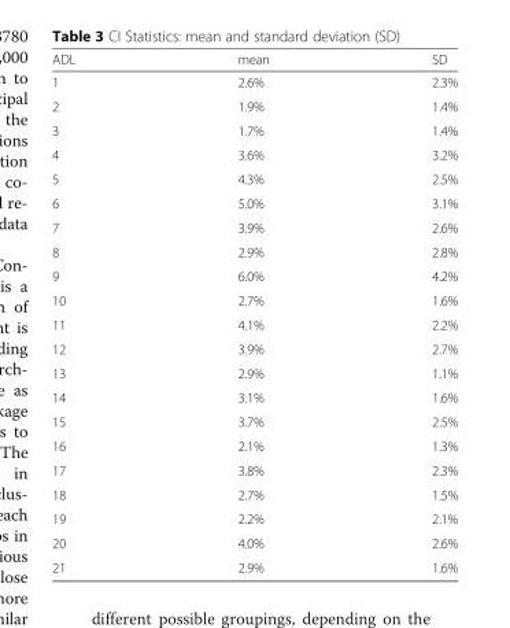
<table><thead><tr><td>ADL</td><td>mean</td><td>SD</td></tr></thead><tbody><tr><td>1</td><td>2.6%</td><td>2.3%</td></tr><tr><td>2</td><td>1.9%</td><td>1.4%</td></tr><tr><td>3</td><td>1.7%</td><td>1.4%</td></tr><tr><td>4</td><td>3.6%</td><td>3.2%</td></tr><tr><td>5</td><td>4.3%</td><td>2.5%</td></tr><tr><td>6</td><td>5.0%</td><td>3.1%</td></tr><tr><td>7</td><td>3.9%</td><td>2.6%</td></tr><tr><td>8</td><td>2.9%</td><td>2.8%</td></tr><tr><td>9</td><td>6.0%</td><td>4.2%</td></tr><tr><td>10</td><td>2.7%</td><td>1.6%</td></tr><tr><td>11</td><td>4.1%</td><td>2.2%</td></tr><tr><td>12</td><td>3.9%</td><td>2.7%</td></tr><tr><td>13</td><td>2.9%</td><td>1.1%</td></tr><tr><td>14</td><td>3.1%</td><td>1.6%</td></tr><tr><td>15</td><td>3.7%</td><td>2.5%</td></tr><tr><td>16</td><td>2.1%</td><td>1.3%</td></tr><tr><td>17</td><td>3.8%</td><td>2.3%</td></tr><tr><td>18</td><td>2.7%</td><td>1.5%</td></tr><tr><td>19</td><td>2.2%</td><td>2.1%</td></tr><tr><td>20</td><td>4.0%</td><td>2.6%</td></tr><tr><td>21</td><td>2.9%</td><td>1.6%</td></tr></tbody></table>